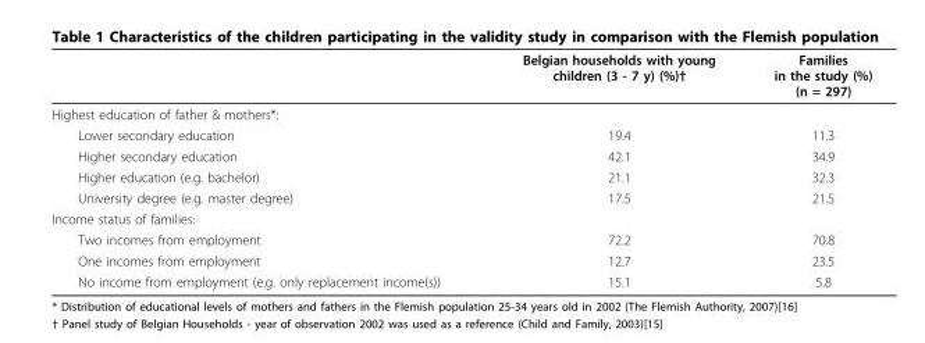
<table><thead><tr><td></td><td>Belgian households with young children (3 - 7 y) (%)†</td><td>Families in the study (%) (n = 297)</td></tr></thead><tbody><tr><td colspan="3">Highest education of father &amp; mothers*:</td></tr><tr><td>Lower secondary education</td><td>19.4</td><td>11.3</td></tr><tr><td>Higher secondary education</td><td>42.1</td><td>34.9</td></tr><tr><td>Higher education (e.g. bachelor)</td><td>21.1</td><td>32.3</td></tr><tr><td>University degree (e.g. master degree)</td><td>17.5</td><td>21.5</td></tr><tr><td colspan="3">Income status of families:</td></tr><tr><td>Two incomes from employment</td><td>72.2</td><td>70.8</td></tr><tr><td>One incomes from employment</td><td>12.7</td><td>23.5</td></tr><tr><td>No income from employment (e.g. only replacement income(s))</td><td>15.1</td><td>5.8</td></tr></tbody></table>